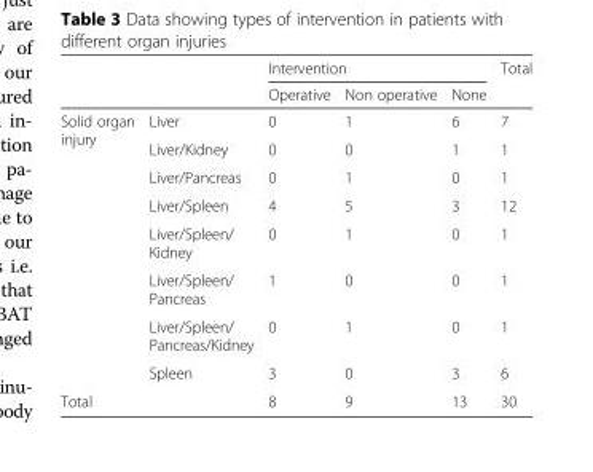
<table><thead><tr><td rowspan="2"></td><td rowspan="2"></td><td colspan="3">Intervention</td><td rowspan="2">Total</td></tr><tr><td>Operative</td><td>Non operative</td><td>None</td></tr></thead><tbody><tr><td rowspan="8">Solid organ injury</td><td>Liver</td><td>0</td><td>1</td><td>6</td><td>7</td></tr><tr><td>Liver/Kidney</td><td>0</td><td>0</td><td>1</td><td>1</td></tr><tr><td>Liver/Pancreas</td><td>0</td><td>1</td><td>0</td><td>1</td></tr><tr><td>Liver/Spleen</td><td>4</td><td>5</td><td>3</td><td>12</td></tr><tr><td>Liver/Spleen/ Kidney</td><td>0</td><td>1</td><td>0</td><td>1</td></tr><tr><td>Liver/Spleen/ Pancreas</td><td>1</td><td>0</td><td>0</td><td>1</td></tr><tr><td>Liver/Spleen/ Pancreas/Kidney</td><td>0</td><td>1</td><td>0</td><td>1</td></tr><tr><td>Spleen</td><td>3</td><td>0</td><td>3</td><td>6</td></tr><tr><td>Total</td><td></td><td>8</td><td>9</td><td>13</td><td>30</td></tr></tbody></table>